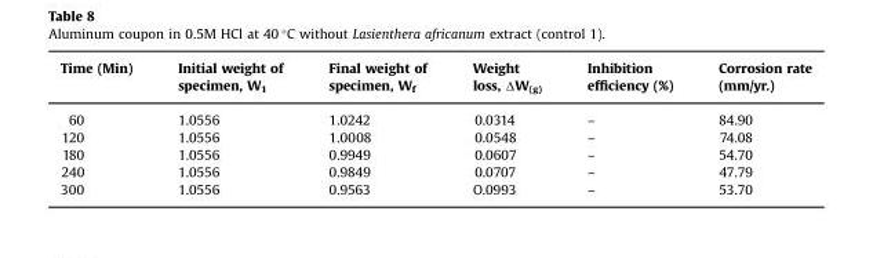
<table><thead><tr><td>Time (Min)</td><td>Initial weight of specimen, W<sub>1</sub></td><td>Final weight of specimen, W<sub>f</sub></td><td>Weight loss, ΔW(g)</td><td>Inhibition efficiency (%)</td><td>Corrosion rate (mm/yr.)</td></tr></thead><tbody><tr><td>60</td><td>1.0556</td><td>1.0242</td><td>0.0314</td><td>–</td><td>84.90</td></tr><tr><td>120</td><td>1.0556</td><td>1.0008</td><td>0.0548</td><td>–</td><td>74.08</td></tr><tr><td>180</td><td>1.0556</td><td>0.9949</td><td>0.0607</td><td>–</td><td>54.70</td></tr><tr><td>240</td><td>1.0556</td><td>0.9849</td><td>0.0707</td><td>–</td><td>47.79</td></tr><tr><td>300</td><td>1.0556</td><td>0.9563</td><td>O.0993</td><td>–</td><td>53.70</td></tr></tbody></table>